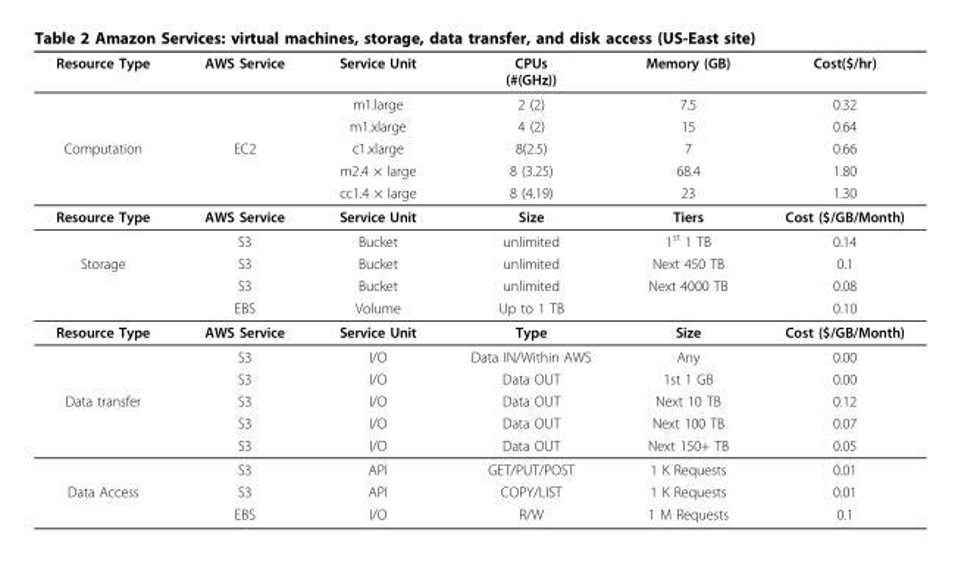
<table><thead><tr><td>Resource Type</td><td>AWS Service</td><td>Service Unit</td><td>CPUs (#(GHz))</td><td>Memory (GB)</td><td>Cost($/hr)</td></tr></thead><tbody><tr><td></td><td></td><td>m1.large</td><td>2 (2)</td><td>7.5</td><td>0.32</td></tr><tr><td></td><td></td><td>m1.xlarge</td><td>4 (2)</td><td>15</td><td>0.64</td></tr><tr><td rowspan="3">Computation</td><td>EC2</td><td>c1.xlarge</td><td>8(2.5)</td><td>7</td><td>0.66</td></tr><tr><td></td><td>m2.4 × large</td><td>8 (3.25)</td><td>68.4</td><td>1.80</td></tr><tr><td></td><td>cc1.4 × large</td><td>8 (4.19)</td><td>23</td><td>1.30</td></tr><tr><td rowspan="2">Resource Type</td><td>AWS Service</td><td>Service Unit</td><td>Size</td><td>Tiers</td><td>Cost ($/GB/Month)</td></tr><tr><td>S3</td><td>Bucket</td><td>unlimited</td><td>1<sup>st</sup> 1 TB</td><td>0.14</td></tr><tr><td rowspan="3">Storage</td><td>S3</td><td>Bucket</td><td>unlimited</td><td>Next 450 TB</td><td>0.1</td></tr><tr><td>S3</td><td>Bucket</td><td>unlimited</td><td>Next 4000 TB</td><td>0.08</td></tr><tr><td>EBS</td><td>Volume</td><td>Up to 1 TB</td><td></td><td>0.10</td></tr><tr><td rowspan="3">Resource Type</td><td>AWS Service</td><td>Service Unit</td><td>Type</td><td>Size</td><td>Cost ($/GB/Month)</td></tr><tr><td>S3</td><td>I/O</td><td>Data IN/Within AWS</td><td>Any</td><td>0.00</td></tr><tr><td>S3</td><td>I/O</td><td>Data OUT</td><td>1st 1 GB</td><td>0.00</td></tr><tr><td rowspan="4">Data transfer</td><td>S3</td><td>I/O</td><td>Data OUT</td><td>Next 10 TB</td><td>0.12</td></tr><tr><td>S3</td><td>I/O</td><td>Data OUT</td><td>Next 100 TB</td><td>0.07</td></tr><tr><td>S3</td><td>I/O</td><td>Data OUT</td><td>Next 150+ TB</td><td>0.05</td></tr><tr><td>S3</td><td>API</td><td>GET/PUT/POST</td><td>1 K Requests</td><td>0.01</td></tr><tr><td rowspan="2">Data Access</td><td>S3</td><td>API</td><td>COPY/LIST</td><td>1 K Requests</td><td>0.01</td></tr><tr><td>EBS</td><td>I/O</td><td>R/W</td><td>1 M Requests</td><td>0.1</td></tr></tbody></table>